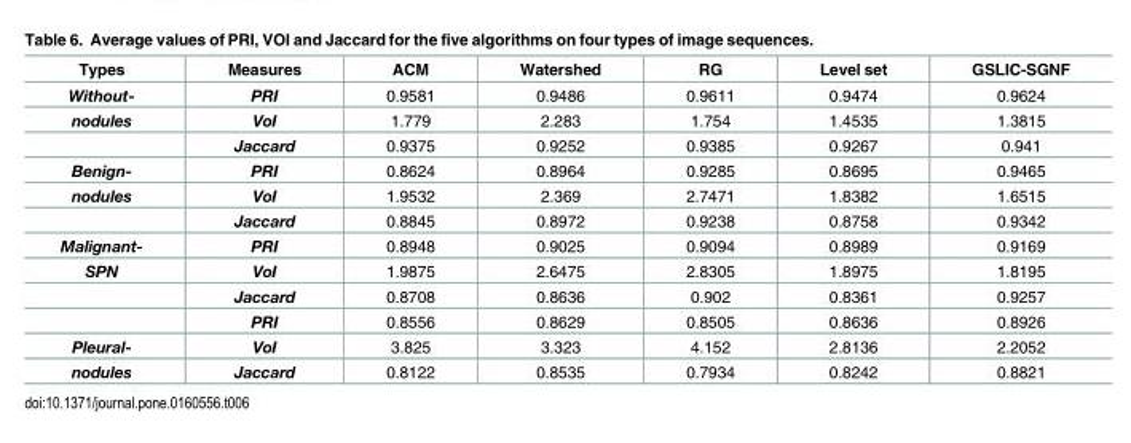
<table><thead><tr><td>Types</td><td>Measures</td><td>ACM</td><td>Watershed</td><td>RG</td><td>Level set</td><td>GSLIC-SGNF</td></tr></thead><tbody><tr><td>Without-</td><td>PRI</td><td>0.9581</td><td>0.9486</td><td>0.9611</td><td>0.9474</td><td>0.9624</td></tr><tr><td rowspan="2">nodules</td><td>VoI</td><td>1.779</td><td>2.283</td><td>1.754</td><td>1.4535</td><td>1.3815</td></tr><tr><td>Jaccard</td><td>0.9375</td><td>0.9252</td><td>0.9385</td><td>0.9267</td><td>0.941</td></tr><tr><td>Benign-</td><td>PRI</td><td>0.8624</td><td>0.8964</td><td>0.9285</td><td>0.8695</td><td>0.9465</td></tr><tr><td rowspan="2">nodules</td><td>VoI</td><td>1.9532</td><td>2.369</td><td>2.7471</td><td>1.8382</td><td>1.6515</td></tr><tr><td>Jaccard</td><td>0.8845</td><td>0.8972</td><td>0.9238</td><td>0.8758</td><td>0.9342</td></tr><tr><td>Malignant-</td><td>PRI</td><td>0.8948</td><td>0.9025</td><td>0.9094</td><td>0.8989</td><td>0.9169</td></tr><tr><td rowspan="3">SPN</td><td>VoI</td><td>1.9875</td><td>2.6475</td><td>2.8305</td><td>1.8975</td><td>1.8195</td></tr><tr><td>Jaccard</td><td>0.8708</td><td>0.8636</td><td>0.902</td><td>0.8361</td><td>0.9257</td></tr><tr><td>PRI</td><td>0.8556</td><td>0.8629</td><td>0.8505</td><td>0.8636</td><td>0.8926</td></tr><tr><td>Pleural-</td><td>VoI</td><td>3.825</td><td>3.323</td><td>4.152</td><td>2.8136</td><td>2.2052</td></tr><tr><td>nodules</td><td>Jaccard</td><td>0.8122</td><td>0.8535</td><td>0.7934</td><td>0.8242</td><td>0.8821</td></tr></tbody></table>